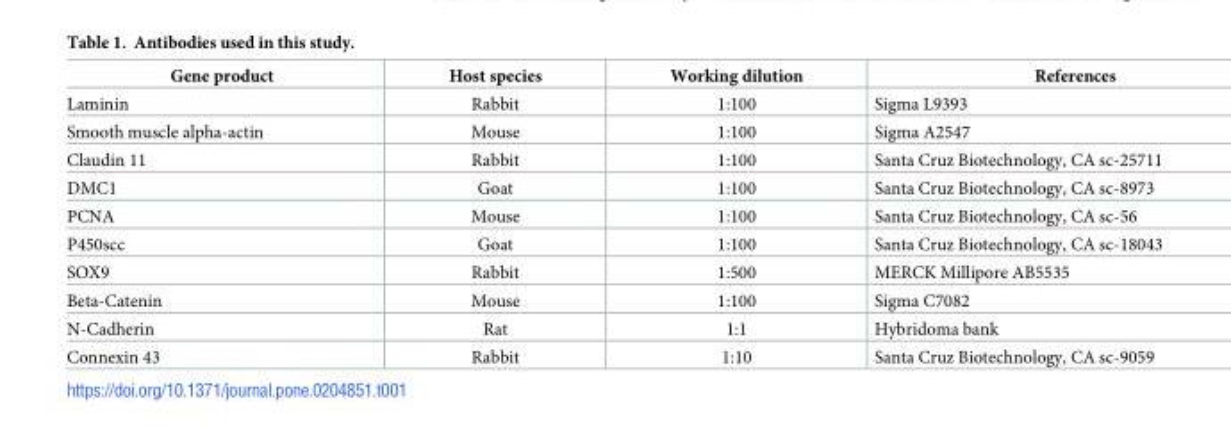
<table><thead><tr><td>Gene product</td><td>Host species</td><td>Working dilution</td><td>References</td></tr></thead><tbody><tr><td>Laminin</td><td>Rabbit</td><td>1:100</td><td>Sigma L9393</td></tr><tr><td>Smooth muscle alpha-actin</td><td>Mouse</td><td>1:100</td><td>Sigma A2547</td></tr><tr><td>Claudin 11</td><td>Rabbit</td><td>1:100</td><td>Santa Cruz Biotechnology, CA sc-25711</td></tr><tr><td>DMC1</td><td>Goat</td><td>1:100</td><td>Santa Cruz Biotechnology, CA sc-8973</td></tr><tr><td>PCNA</td><td>Mouse</td><td>1:100</td><td>Santa Cruz Biotechnology, CA sc-56</td></tr><tr><td>P450scc</td><td>Goat</td><td>1:100</td><td>Santa Cruz Biotechnology, CA sc-18043</td></tr><tr><td>SOX9</td><td>Rabbit</td><td>1:500</td><td>MERCK Millipore AB5535</td></tr><tr><td>Beta-Catenin</td><td>Mouse</td><td>1:100</td><td>Sigma C7082</td></tr><tr><td>N-Cadherin</td><td>Rat</td><td>1:1</td><td>Hybridoma bank</td></tr><tr><td>Connexin 43</td><td>Rabbit</td><td>1:10</td><td>Santa Cruz Biotechnology, CA sc-9059</td></tr></tbody></table>